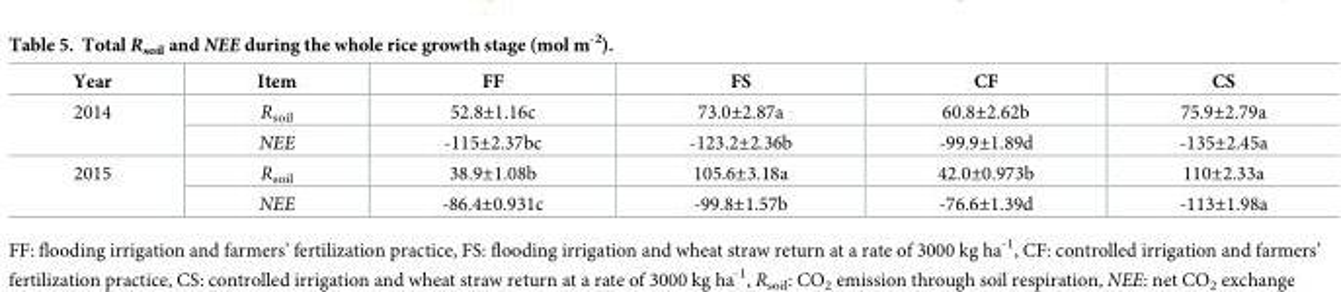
<table><thead><tr><td>Year</td><td>Item</td><td>FF</td><td>FS</td><td>CF</td><td>CS</td></tr></thead><tbody><tr><td rowspan="2">2014</td><td>R<sub>soil</sub></td><td>52.8±1.16c</td><td>73.0±2.87a</td><td>60.8±2.62b</td><td>75.9±2.79a</td></tr><tr><td>NEE</td><td>-115±2.37bc</td><td>-123.2±2.36b</td><td>-99.9±1.89d</td><td>-135±2.45a</td></tr><tr><td rowspan="2">2015</td><td>R<sub>soil</sub></td><td>38.9±1.08b</td><td>105.6±3.18a</td><td>42.0±0.973b</td><td>110±2.33a</td></tr><tr><td>NEE</td><td>-86.4±0.931c</td><td>-99.8±1.57b</td><td>-76.6±1.39d</td><td>-113±1.98a</td></tr></tbody></table>